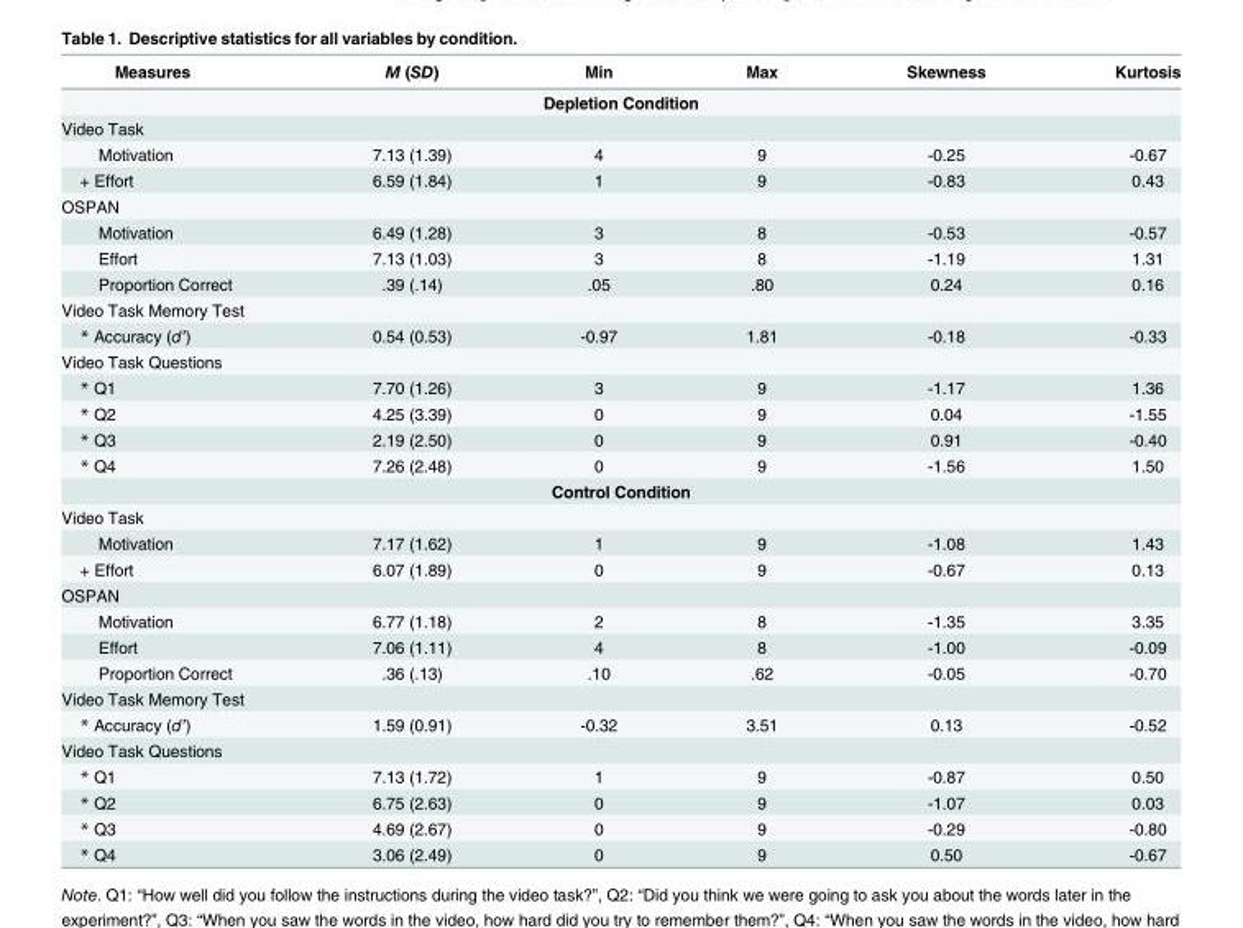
<table><thead><tr><td>Measures</td><td>M (SD)</td><td>Min</td><td>Max</td><td>Skewness</td><td>Kurtosis</td></tr></thead><tbody><tr><td colspan="6">Depletion Condition</td></tr><tr><td colspan="6">Video Task</td></tr><tr><td>Motivation</td><td>7.13 (1.39)</td><td>4</td><td>9</td><td>-0.25</td><td>-0.67</td></tr><tr><td>+ Effort</td><td>6.59 (1.84)</td><td>1</td><td>9</td><td>-0.83</td><td>0.43</td></tr><tr><td colspan="6">OSPAN</td></tr><tr><td>Motivation</td><td>6.49 (1.28)</td><td>3</td><td>8</td><td>-0.53</td><td>-0.57</td></tr><tr><td>Effort</td><td>7.13 (1.03)</td><td>3</td><td>8</td><td>-1.19</td><td>1.31</td></tr><tr><td>Proportion Correct</td><td>.39 (.14)</td><td>.05</td><td>.80</td><td>0.24</td><td>0.16</td></tr><tr><td colspan="6">Video Task Memory Test</td></tr><tr><td>* Accuracy (d’)</td><td>0.54 (0.53)</td><td>-0.97</td><td>1.81</td><td>-0.18</td><td>-0.33</td></tr><tr><td colspan="6">Video Task Questions</td></tr><tr><td>* Q1</td><td>7.70 (1.26)</td><td>3</td><td>9</td><td>-1.17</td><td>1.36</td></tr><tr><td>* Q2</td><td>4.25 (3.39)</td><td>0</td><td>9</td><td>0.04</td><td>-1.55</td></tr><tr><td>* Q3</td><td>2.19 (2.50)</td><td>0</td><td>9</td><td>0.91</td><td>-0.40</td></tr><tr><td>* Q4</td><td>7.26 (2.48)</td><td>0</td><td>9</td><td>-1.56</td><td>1.50</td></tr><tr><td colspan="6">Control Condition</td></tr><tr><td colspan="6">Video Task</td></tr><tr><td>Motivation</td><td>7.17 (1.62)</td><td>1</td><td>9</td><td>-1.08</td><td>1.43</td></tr><tr><td>+ Effort</td><td>6.07 (1.89)</td><td>0</td><td>9</td><td>-0.67</td><td>0.13</td></tr><tr><td colspan="6">OSPAN</td></tr><tr><td>Motivation</td><td>6.77 (1.18)</td><td>2</td><td>8</td><td>-1.35</td><td>3.35</td></tr><tr><td>Effort</td><td>7.06 (1.11)</td><td>4</td><td>8</td><td>-1.00</td><td>-0.09</td></tr><tr><td>Proportion Correct</td><td>.36 (.13)</td><td>.10</td><td>.62</td><td>-0.05</td><td>-0.70</td></tr><tr><td colspan="6">Video Task Memory Test</td></tr><tr><td>* Accuracy (d’)</td><td>1.59 (0.91)</td><td>-0.32</td><td>3.51</td><td>0.13</td><td>-0.52</td></tr><tr><td colspan="6">Video Task Questions</td></tr><tr><td>* Q1</td><td>7.13 (1.72)</td><td>1</td><td>9</td><td>-0.87</td><td>0.50</td></tr><tr><td>* Q2</td><td>6.75 (2.63)</td><td>0</td><td>9</td><td>-1.07</td><td>0.03</td></tr><tr><td>* Q3</td><td>4.69 (2.67)</td><td>0</td><td>9</td><td>-0.29</td><td>-0.80</td></tr><tr><td>* Q4</td><td>3.06 (2.49)</td><td>0</td><td>9</td><td>0.50</td><td>-0.67</td></tr></tbody></table>